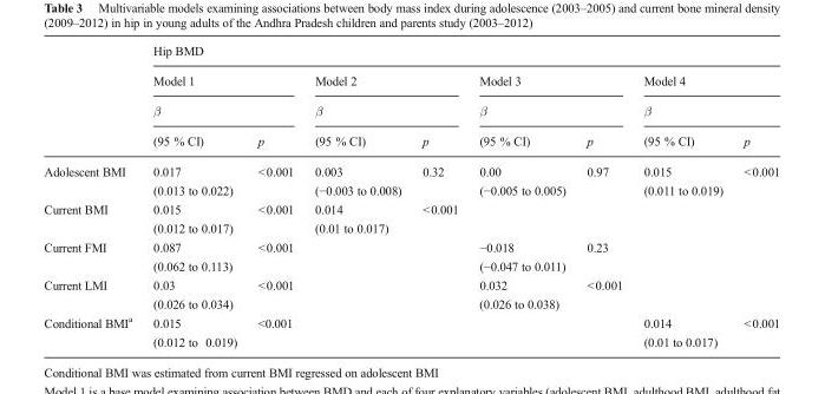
<table><thead><tr><td rowspan="4"></td><td colspan="8">Hip BMD</td></tr><tr><td rowspan="2" colspan="2">Model 1 β</td><td rowspan="2" colspan="2">Model 2 β</td><td rowspan="2" colspan="2">Model 3 β</td><td rowspan="2" colspan="2">Model 4 β</td></tr><tr></tr><tr><td>(95 % CI)</td><td>p</td><td>(95 % CI)</td><td>p</td><td>(95 % CI)</td><td>p</td><td>(95 % CI)</td><td>p</td></tr></thead><tbody><tr><td rowspan="2">Adolescent BMI</td><td>0.017</td><td>&lt;0.001</td><td>0.003</td><td>0.32</td><td>0.00</td><td>0.97</td><td>0.015</td><td>&lt;0.001</td></tr><tr><td>(0.013 to 0.022)</td><td></td><td>(−0.003 to 0.008)</td><td></td><td>(−0.005 to 0.005)</td><td></td><td>(0.011 to 0.019)</td><td></td></tr><tr><td rowspan="2">Current BMI</td><td>0.015</td><td>&lt;0.001</td><td>0.014</td><td>&lt;0.001</td><td></td><td></td><td></td><td></td></tr><tr><td>(0.012 to 0.017)</td><td></td><td>(0.01 to 0.017)</td><td></td><td></td><td></td><td></td><td></td></tr><tr><td rowspan="2">Current FMI</td><td>0.087</td><td>&lt;0.001</td><td></td><td></td><td>−0.018</td><td>0.23</td><td></td><td></td></tr><tr><td>(0.062 to 0.113)</td><td></td><td></td><td></td><td>(−0.047 to 0.011)</td><td></td><td></td><td></td></tr><tr><td rowspan="2">Current LMI</td><td>0.03</td><td>&lt;0.001</td><td></td><td></td><td>0.032</td><td>&lt;0.001</td><td></td><td></td></tr><tr><td>(0.026 to 0.034)</td><td></td><td></td><td></td><td>(0.026 to 0.038)</td><td></td><td></td><td></td></tr><tr><td rowspan="2">Conditional BMI<sup>a</sup></td><td>0.015</td><td>&lt;0.001</td><td></td><td></td><td></td><td></td><td>0.014</td><td>&lt;0.001</td></tr><tr><td>(0.012 to 0.019)</td><td></td><td></td><td></td><td></td><td></td><td>(0.01 to 0.017)</td><td></td></tr></tbody></table>